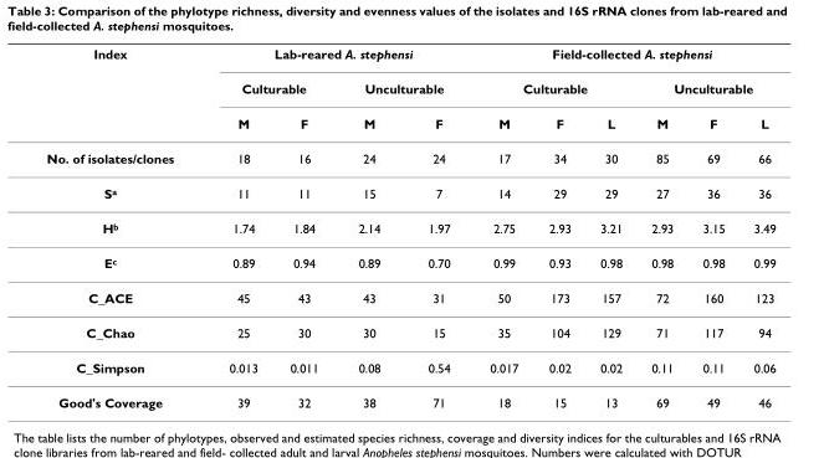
<table><thead><tr><td rowspan="3">Index</td><td colspan="4">Lab-reared A. stephensi</td><td colspan="6">Field-collected A. stephensi</td></tr><tr><td colspan="2">Culturable</td><td colspan="2">Unculturable</td><td colspan="3">Culturable</td><td colspan="3">Unculturable</td></tr><tr><td>M</td><td>F</td><td>M</td><td>F</td><td>M</td><td>F</td><td>L</td><td>M</td><td>F</td><td>L</td></tr></thead><tbody><tr><td>No. of isolates/clones</td><td>18</td><td>16</td><td>24</td><td>24</td><td>17</td><td>34</td><td>30</td><td>85</td><td>69</td><td>66</td></tr><tr><td>S<sup>a</sup></td><td>11</td><td>11</td><td>15</td><td>7</td><td>14</td><td>29</td><td>29</td><td>27</td><td>36</td><td>36</td></tr><tr><td>H<sup>b</sup></td><td>1.74</td><td>1.84</td><td>2.14</td><td>1.97</td><td>2.75</td><td>2.93</td><td>3.21</td><td>2.93</td><td>3.15</td><td>3.49</td></tr><tr><td>E<sup>c</sup></td><td>0.89</td><td>0.94</td><td>0.89</td><td>0.70</td><td>0.99</td><td>0.93</td><td>0.98</td><td>0.98</td><td>0.98</td><td>0.99</td></tr><tr><td>C_ACE</td><td>45</td><td>43</td><td>43</td><td>31</td><td>50</td><td>173</td><td>157</td><td>72</td><td>160</td><td>123</td></tr><tr><td>C_Chao</td><td>25</td><td>30</td><td>30</td><td>15</td><td>35</td><td>104</td><td>129</td><td>71</td><td>117</td><td>94</td></tr><tr><td>C_Simpson</td><td>0.013</td><td>0.011</td><td>0.08</td><td>0.54</td><td>0.017</td><td>0.02</td><td>0.02</td><td>0.11</td><td>0.11</td><td>0.06</td></tr><tr><td>Good&#x27;s Coverage</td><td>39</td><td>32</td><td>38</td><td>71</td><td>18</td><td>15</td><td>13</td><td>69</td><td>49</td><td>46</td></tr></tbody></table>